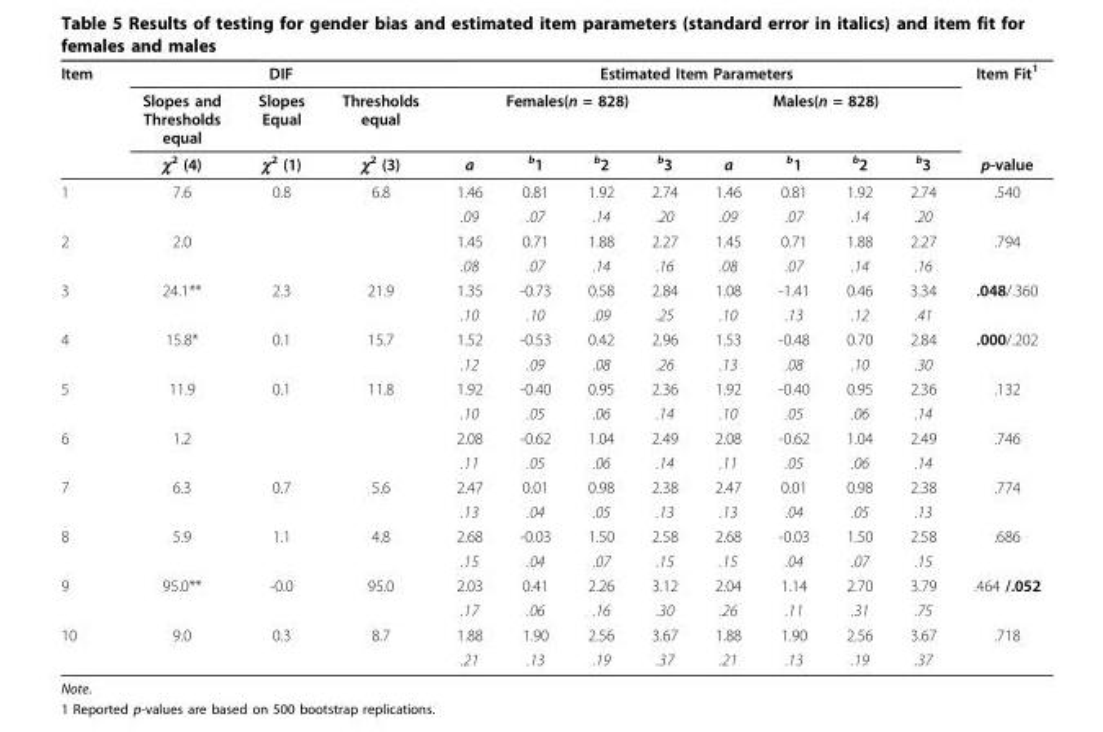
<table><thead><tr><td rowspan="3">Item</td><td colspan="3">DIF</td><td colspan="8">Estimated Item Parameters</td><td rowspan="3">Item Fit<sup>1</sup> p-value</td></tr><tr><td rowspan="2">Slopes and Thresholds equal χ<sup>2</sup> (4)</td><td rowspan="2">Slopes Equal χ<sup>2</sup> (1)</td><td rowspan="2">Thresholds equal χ<sup>2</sup> (3)</td><td colspan="4">Females(n = 828)</td><td colspan="4">Males(n = 828)</td></tr><tr><td>a</td><td><sup>b</sup>1</td><td><sup>b</sup>2</td><td><sup>b</sup>3</td><td>a</td><td><sup>b</sup>1</td><td><sup>b</sup>2</td><td><sup>b</sup>3</td></tr></thead><tbody><tr><td rowspan="2">1</td><td>7.6</td><td>0.8</td><td>6.8</td><td>1.46</td><td>0.81</td><td>1.92</td><td>2.74</td><td>1.46</td><td>0.81</td><td>1.92</td><td>2.74</td><td>.540</td></tr><tr><td></td><td></td><td></td><td>.09</td><td>.07</td><td>.14</td><td>.20</td><td>.09</td><td>.07</td><td>.14</td><td>.20</td><td></td></tr><tr><td rowspan="2">2</td><td>2.0</td><td></td><td></td><td>1.45</td><td>0.71</td><td>1.88</td><td>2.27</td><td>1.45</td><td>0.71</td><td>1.88</td><td>2.27</td><td>.794</td></tr><tr><td></td><td></td><td></td><td>.08</td><td>.07</td><td>.14</td><td>.16</td><td>.08</td><td>.07</td><td>.14</td><td>.16</td><td></td></tr><tr><td rowspan="2">3</td><td>24.1**</td><td>2.3</td><td>21.9</td><td>1.35</td><td>-0.73</td><td>0.58</td><td>2.84</td><td>1.08</td><td>-1.41</td><td>0.46</td><td>3.34</td><td>.048/.360</td></tr><tr><td></td><td></td><td></td><td>.10</td><td>.10</td><td>.09</td><td>.25</td><td>.10</td><td>.13</td><td>.12</td><td>.41</td><td></td></tr><tr><td rowspan="2">4</td><td>15.8*</td><td>0.1</td><td>15.7</td><td>1.52</td><td>-0.53</td><td>0.42</td><td>2.96</td><td>1.53</td><td>-0.48</td><td>0.70</td><td>2.84</td><td>.000/.202</td></tr><tr><td></td><td></td><td></td><td>.12</td><td>.09</td><td>.08</td><td>.26</td><td>.13</td><td>.08</td><td>.10</td><td>.30</td><td></td></tr><tr><td rowspan="2">5</td><td>11.9</td><td>0.1</td><td>11.8</td><td>1.92</td><td>-0.40</td><td>0.95</td><td>2.36</td><td>1.92</td><td>-0.40</td><td>0.95</td><td>2.36</td><td>.132</td></tr><tr><td></td><td></td><td></td><td>.10</td><td>.05</td><td>.06</td><td>.14</td><td>.10</td><td>.05</td><td>.06</td><td>.14</td><td></td></tr><tr><td rowspan="2">6</td><td>1.2</td><td></td><td></td><td>2.08</td><td>-0.62</td><td>1.04</td><td>2.49</td><td>2.08</td><td>-0.62</td><td>1.04</td><td>2.49</td><td>.746</td></tr><tr><td></td><td></td><td></td><td>.11</td><td>.05</td><td>.06</td><td>.14</td><td>.11</td><td>.05</td><td>.06</td><td>.14</td><td></td></tr><tr><td rowspan="2">7</td><td>6.3</td><td>0.7</td><td>5.6</td><td>2.47</td><td>0.01</td><td>0.98</td><td>2.38</td><td>2.47</td><td>0.01</td><td>0.98</td><td>2.38</td><td>.774</td></tr><tr><td></td><td></td><td></td><td>.13</td><td>.04</td><td>.05</td><td>.13</td><td>.13</td><td>.04</td><td>.05</td><td>.13</td><td></td></tr><tr><td rowspan="2">8</td><td>5.9</td><td>1.1</td><td>4.8</td><td>2.68</td><td>-0.03</td><td>1.50</td><td>2.58</td><td>2.68</td><td>-0.03</td><td>1.50</td><td>2.58</td><td>.686</td></tr><tr><td></td><td></td><td></td><td>.15</td><td>.04</td><td>.07</td><td>.15</td><td>.15</td><td>.04</td><td>.07</td><td>.15</td><td></td></tr><tr><td rowspan="2">9</td><td>95.0**</td><td>-0.0</td><td>95.0</td><td>2.03</td><td>0.41</td><td>2.26</td><td>3.12</td><td>2.04</td><td>1.14</td><td>2.70</td><td>3.79</td><td>.464 /.052</td></tr><tr><td></td><td></td><td></td><td>.17</td><td>.06</td><td>.16</td><td>.30</td><td>.26</td><td>.11</td><td>.31</td><td>.75</td><td></td></tr><tr><td rowspan="2">10</td><td>9.0</td><td>0.3</td><td>8.7</td><td>1.88</td><td>1.90</td><td>2.56</td><td>3.67</td><td>1.88</td><td>1.90</td><td>2.56</td><td>3.67</td><td>.718</td></tr><tr><td></td><td></td><td></td><td>.21</td><td>.13</td><td>.19</td><td>.37</td><td>.21</td><td>.13</td><td>.19</td><td>.37</td><td></td></tr></tbody></table>